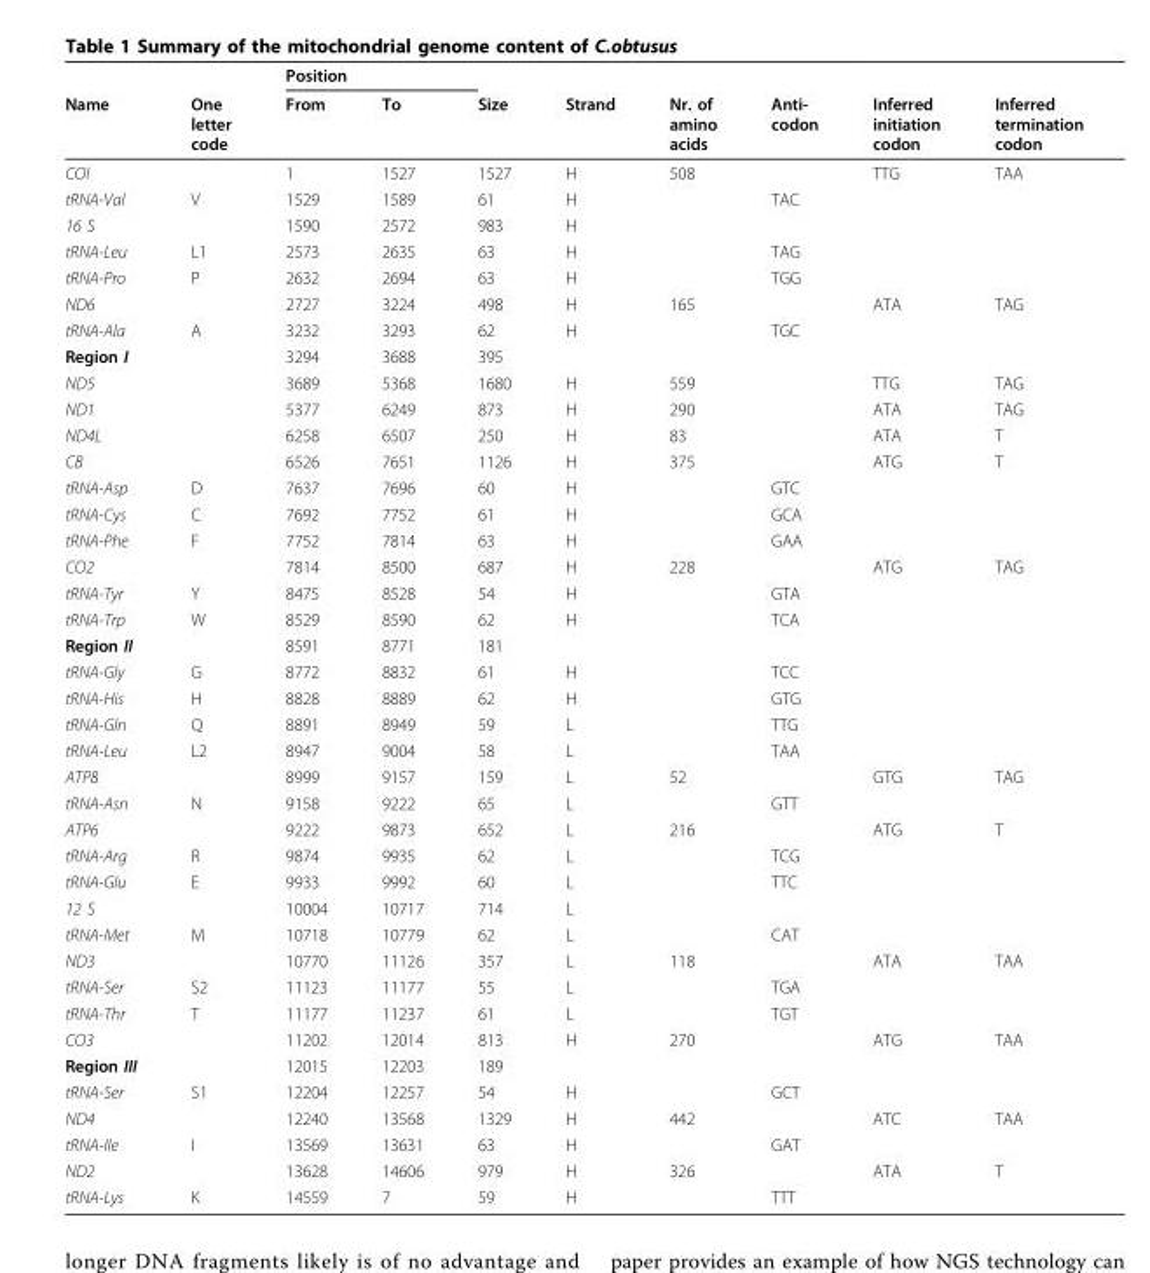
<table><thead><tr><td rowspan="2">Name</td><td rowspan="2">One letter code</td><td colspan="2">Position</td><td rowspan="2">Size</td><td rowspan="2">Strand</td><td rowspan="2">Nr. of amino acids</td><td rowspan="2">Anti- codon</td><td rowspan="2">Inferred initiation codon</td><td rowspan="2">Inferred termination codon</td></tr><tr><td>From</td><td>To</td></tr></thead><tbody><tr><td>COI</td><td></td><td>1</td><td>1527</td><td>1527</td><td>H</td><td>508</td><td></td><td>TTG</td><td>TAA</td></tr><tr><td>tRNA-Val</td><td>V</td><td>1529</td><td>1589</td><td>61</td><td>H</td><td></td><td>TAC</td><td></td><td></td></tr><tr><td>16 S</td><td></td><td>1590</td><td>2572</td><td>983</td><td>H</td><td></td><td></td><td></td><td></td></tr><tr><td>tRNA-Leu</td><td>L1</td><td>2573</td><td>2635</td><td>63</td><td>H</td><td></td><td>TAG</td><td></td><td></td></tr><tr><td>tRNA-Pro</td><td>P</td><td>2632</td><td>2694</td><td>63</td><td>H</td><td></td><td>TGG</td><td></td><td></td></tr><tr><td>ND6</td><td></td><td>2727</td><td>3224</td><td>498</td><td>H</td><td>165</td><td></td><td>ATA</td><td>TAG</td></tr><tr><td>tRNA-Ala</td><td>A</td><td>3232</td><td>3293</td><td>62</td><td>H</td><td></td><td>TGC</td><td></td><td></td></tr><tr><td>Region I</td><td></td><td>3294</td><td>3688</td><td>395</td><td></td><td></td><td></td><td></td><td></td></tr><tr><td>ND5</td><td></td><td>3689</td><td>5368</td><td>1680</td><td>H</td><td>559</td><td></td><td>TTG</td><td>TAG</td></tr><tr><td>ND1</td><td></td><td>5377</td><td>6249</td><td>873</td><td>H</td><td>290</td><td></td><td>ATA</td><td>TAG</td></tr><tr><td>ND4L</td><td></td><td>6258</td><td>6507</td><td>250</td><td>H</td><td>83</td><td></td><td>ATA</td><td>T</td></tr><tr><td>CB</td><td></td><td>6526</td><td>7651</td><td>1126</td><td>H</td><td>375</td><td></td><td>ATG</td><td>T</td></tr><tr><td>tRNA-Asp</td><td>D</td><td>7637</td><td>7696</td><td>60</td><td>H</td><td></td><td>GTC</td><td></td><td></td></tr><tr><td>tRNA-Cys</td><td>C</td><td>7692</td><td>7752</td><td>61</td><td>H</td><td></td><td>GCA</td><td></td><td></td></tr><tr><td>tRNA-Phe</td><td>F</td><td>7752</td><td>7814</td><td>63</td><td>H</td><td></td><td>GAA</td><td></td><td></td></tr><tr><td>CO2</td><td></td><td>7814</td><td>8500</td><td>687</td><td>H</td><td>228</td><td></td><td>ATG</td><td>TAG</td></tr><tr><td>tRNA-Tyr</td><td>Y</td><td>8475</td><td>8528</td><td>54</td><td>H</td><td></td><td>GTA</td><td></td><td></td></tr><tr><td>tRNA-Trp</td><td>W</td><td>8529</td><td>8590</td><td>62</td><td>H</td><td></td><td>TCA</td><td></td><td></td></tr><tr><td>Region II</td><td></td><td>8591</td><td>8771</td><td>181</td><td></td><td></td><td></td><td></td><td></td></tr><tr><td>tRNA-Gly</td><td>G</td><td>8772</td><td>8832</td><td>61</td><td>H</td><td></td><td>TCC</td><td></td><td></td></tr><tr><td>tRNA-His</td><td>H</td><td>8828</td><td>8889</td><td>62</td><td>H</td><td></td><td>GTG</td><td></td><td></td></tr><tr><td>tRNA-Gln</td><td>Q</td><td>8891</td><td>8949</td><td>59</td><td>L</td><td></td><td>TTG</td><td></td><td></td></tr><tr><td>tRNA-Leu</td><td>L2</td><td>8947</td><td>9004</td><td>58</td><td>L</td><td></td><td>TAA</td><td></td><td></td></tr><tr><td>ATP8</td><td></td><td>8999</td><td>9157</td><td>159</td><td>L</td><td>52</td><td></td><td>GTG</td><td>TAG</td></tr><tr><td>tRNA-Asn</td><td>N</td><td>9158</td><td>9222</td><td>65</td><td>L</td><td></td><td>GTT</td><td></td><td></td></tr><tr><td>ATP6</td><td></td><td>9222</td><td>9873</td><td>652</td><td>L</td><td>216</td><td></td><td>ATG</td><td>T</td></tr><tr><td>tRNA-Arg</td><td>R</td><td>9874</td><td>9935</td><td>62</td><td>L</td><td></td><td>TCG</td><td></td><td></td></tr><tr><td>tRNA-Glu</td><td>E</td><td>9933</td><td>9992</td><td>60</td><td>L</td><td></td><td>TTC</td><td></td><td></td></tr><tr><td>12 S</td><td></td><td>10004</td><td>10717</td><td>714</td><td>L</td><td></td><td></td><td></td><td></td></tr><tr><td>tRNA-Met</td><td>M</td><td>10718</td><td>10779</td><td>62</td><td>L</td><td></td><td>CAT</td><td></td><td></td></tr><tr><td>ND3</td><td></td><td>10770</td><td>11126</td><td>357</td><td>L</td><td>118</td><td></td><td>ATA</td><td>TAA</td></tr><tr><td>tRNA-Ser</td><td>S2</td><td>11123</td><td>11177</td><td>55</td><td>L</td><td></td><td>TGA</td><td></td><td></td></tr><tr><td>tRNA-Thr</td><td>T</td><td>11177</td><td>11237</td><td>61</td><td>L</td><td></td><td>TGT</td><td></td><td></td></tr><tr><td>CO3</td><td></td><td>11202</td><td>12014</td><td>813</td><td>H</td><td>270</td><td></td><td>ATG</td><td>TAA</td></tr><tr><td>Region III</td><td></td><td>12015</td><td>12203</td><td>189</td><td></td><td></td><td></td><td></td><td></td></tr><tr><td>tRNA-Ser</td><td>S1</td><td>12204</td><td>12257</td><td>54</td><td>H</td><td></td><td>GCT</td><td></td><td></td></tr><tr><td>ND4</td><td></td><td>12240</td><td>13568</td><td>1329</td><td>H</td><td>442</td><td></td><td>ATC</td><td>TAA</td></tr><tr><td>tRNA-Ile</td><td>I</td><td>13569</td><td>13631</td><td>63</td><td>H</td><td></td><td>GAT</td><td></td><td></td></tr><tr><td>ND2</td><td></td><td>13628</td><td>14606</td><td>979</td><td>H</td><td>326</td><td></td><td>ATA</td><td>T</td></tr><tr><td>tRNA-Lys</td><td>K</td><td>14559</td><td>7</td><td>59</td><td>H</td><td></td><td>TTT</td><td></td><td></td></tr></tbody></table>